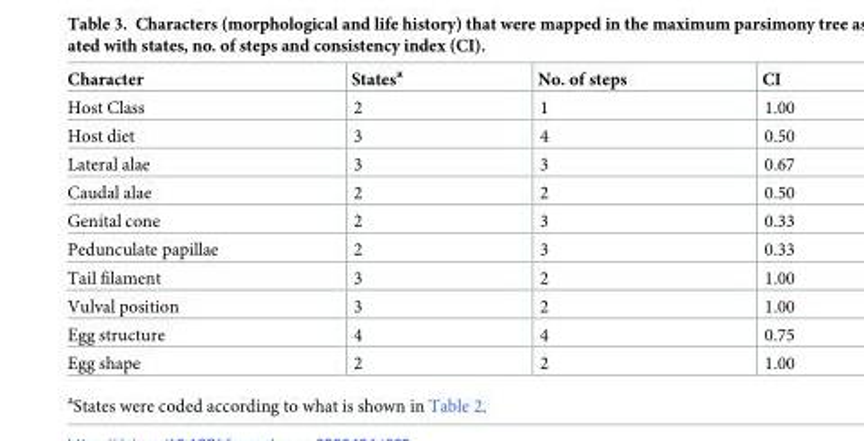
<table><thead><tr><td>Character</td><td>States<sup>a</sup></td><td>No. of steps</td><td>CI</td></tr></thead><tbody><tr><td>Host Class</td><td>2</td><td>1</td><td>1.00</td></tr><tr><td>Host diet</td><td>3</td><td>4</td><td>0.50</td></tr><tr><td>Lateral alae</td><td>3</td><td>3</td><td>0.67</td></tr><tr><td>Caudal alae</td><td>2</td><td>2</td><td>0.50</td></tr><tr><td>Genital cone</td><td>2</td><td>3</td><td>0.33</td></tr><tr><td>Pedunculate papillae</td><td>2</td><td>3</td><td>0.33</td></tr><tr><td>Tail filament</td><td>3</td><td>2</td><td>1.00</td></tr><tr><td>Vulval position</td><td>3</td><td>2</td><td>1.00</td></tr><tr><td>Egg structure</td><td>4</td><td>4</td><td>0.75</td></tr><tr><td>Egg shape</td><td>2</td><td>2</td><td>1.00</td></tr></tbody></table>